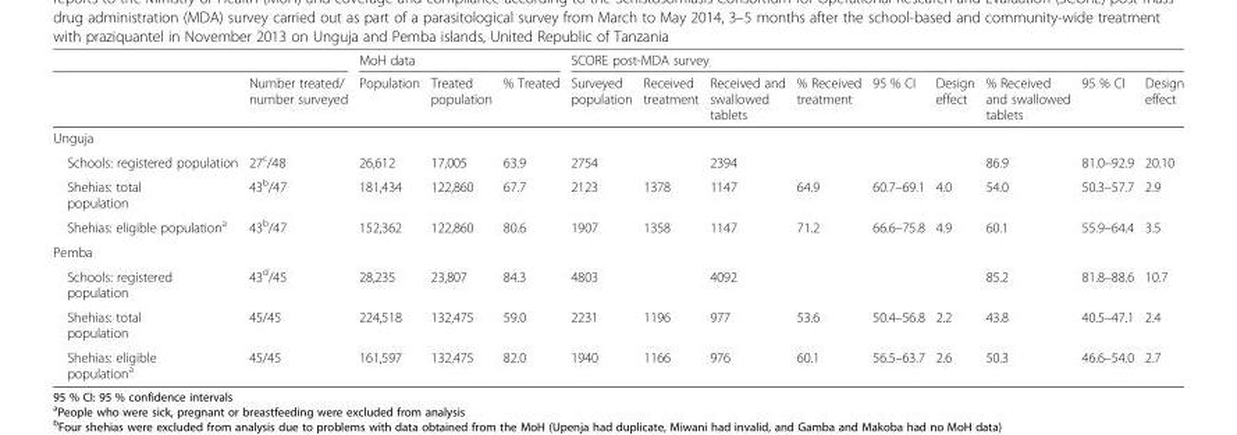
<table><thead><tr><td rowspan="2"></td><td rowspan="2">Number treated/ number surveyed</td><td colspan="3">MoH data</td><td colspan="9">SCORE post-MDA survey</td></tr><tr><td>Population</td><td>Treated population</td><td>% Treated</td><td>Surveyed population</td><td>Received treatment</td><td>Received and swallowed tablets</td><td>% Received treatment</td><td>95 % CI</td><td>Design effect</td><td>% Received and swallowed tablets</td><td>95 % CI</td><td>Design effect</td></tr></thead><tbody><tr><td colspan="14">Unguja</td></tr><tr><td>Schools: registered population</td><td>27<sup>c</sup>/48</td><td>26,612</td><td>17,005</td><td>63.9</td><td>2754</td><td></td><td>2394</td><td></td><td></td><td></td><td>86.9</td><td>81.0–92.9</td><td>20.10</td></tr><tr><td>Shehias: total population</td><td>43<sup>b</sup>/47</td><td>181,434</td><td>122,860</td><td>67.7</td><td>2123</td><td>1378</td><td>1147</td><td>64.9</td><td>60.7–69.1</td><td>4.0</td><td>54.0</td><td>50.3–57.7</td><td>2.9</td></tr><tr><td>Shehias: eligible population<sup>a</sup></td><td>43<sup>b</sup>/47</td><td>152,362</td><td>122,860</td><td>80.6</td><td>1907</td><td>1358</td><td>1147</td><td>71.2</td><td>66.6–75.8</td><td>4.9</td><td>60.1</td><td>55.9–64.4</td><td>3.5</td></tr><tr><td colspan="14">Pemba</td></tr><tr><td>Schools: registered population</td><td>43<sup>d</sup>/45</td><td>28,235</td><td>23,807</td><td>84.3</td><td>4803</td><td></td><td>4092</td><td></td><td></td><td></td><td>85.2</td><td>81.8–88.6</td><td>10.7</td></tr><tr><td>Shehias: total population</td><td>45/45</td><td>224,518</td><td>132,475</td><td>59.0</td><td>2231</td><td>1196</td><td>977</td><td>53.6</td><td>50.4–56.8</td><td>2.2</td><td>43.8</td><td>40.5–47.1</td><td>2.4</td></tr><tr><td>Shehias: eligible population<sup>a</sup></td><td>45/45</td><td>161,597</td><td>132,475</td><td>82.0</td><td>1940</td><td>1166</td><td>976</td><td>60.1</td><td>56.5–63.7</td><td>2.6</td><td>50.3</td><td>46.6–54.0</td><td>2.7</td></tr></tbody></table>